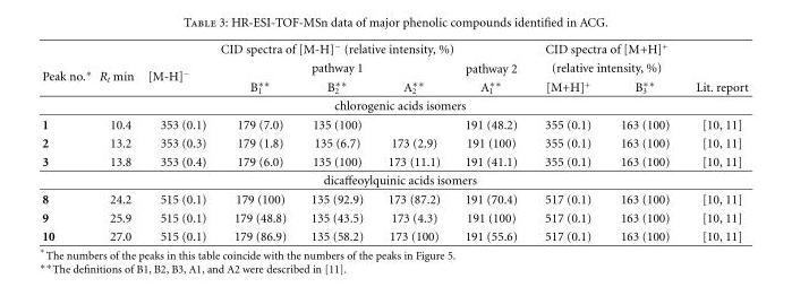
<table><thead><tr><td rowspan="3">Peak no.∗</td><td rowspan="3">Rt min</td><td colspan="5">CID spectra of [M-H]− (relative intensity, %)</td><td rowspan="2" colspan="2">CID spectra of [M+H]+ (relative intensity, %)</td><td rowspan="3">Lit. report</td></tr><tr><td rowspan="2">[M-H]−</td><td colspan="3">pathway 1</td><td rowspan="2">pathway 2 A∗∗ 1</td></tr><tr><td>B∗∗ 1</td><td>B∗∗ 2</td><td>A∗∗ 2</td><td>[M+H]+</td><td>B∗∗ 3</td></tr><tr><td colspan="10">chlorogenic acids isomers</td></tr></thead><tbody><tr><td>1</td><td>10.4</td><td>353 (0.1)</td><td>179 (7.0)</td><td>135 (100)</td><td></td><td>191 (48.2)</td><td>355 (0.1)</td><td>163 (100)</td><td>[10, 11]</td></tr><tr><td>2</td><td>13.2</td><td>353 (0.3)</td><td>179 (1.8)</td><td>135 (6.7)</td><td>173 (2.9)</td><td>191 (100)</td><td>355 (0.1)</td><td>163 (100)</td><td>[10, 11]</td></tr><tr><td>3</td><td>13.8</td><td>353 (0.4)</td><td>179 (6.0)</td><td>135 (100)</td><td>173 (11.1)</td><td>191 (41.1)</td><td>355 (0.1)</td><td>163 (100)</td><td>[10, 11]</td></tr><tr><td colspan="10">dicaffeoylquinic acids isomers</td></tr><tr><td>8</td><td>24.2</td><td>515 (0.1)</td><td>179 (100)</td><td>135 (92.9)</td><td>173 (87.2)</td><td>191 (70.4)</td><td>517 (0.1)</td><td>163 (100)</td><td>[10, 11]</td></tr><tr><td>9</td><td>25.9</td><td>515 (0.1)</td><td>179 (48.8)</td><td>135 (43.5)</td><td>173 (4.3)</td><td>191 (100)</td><td>517 (0.1)</td><td>163 (100)</td><td>[10, 11]</td></tr><tr><td>10</td><td>27.0</td><td>515 (0.1)</td><td>179 (86.9)</td><td>135 (58.2)</td><td>173 (100)</td><td>191 (55.6)</td><td>517 (0.1)</td><td>163 (100)</td><td>[10, 11]</td></tr></tbody></table>